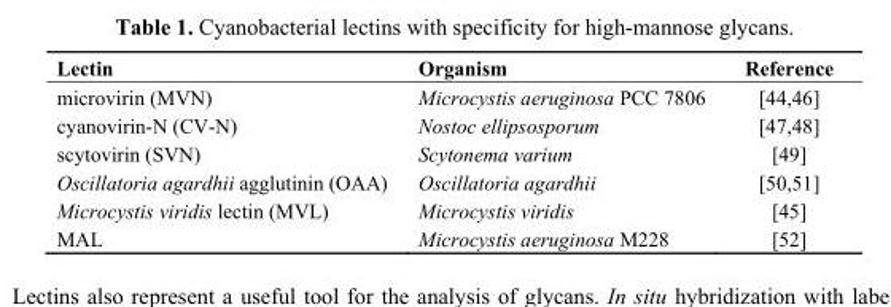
<table><thead><tr><td>Lectin</td><td>Organism</td><td>Reference</td></tr></thead><tbody><tr><td>microvirin (MVN)</td><td>Microcystis aeruginosa PCC 7806</td><td>[44,46]</td></tr><tr><td>cyanovirin-N (CV-N)</td><td>Nostoc ellipsosporum</td><td>[47,48]</td></tr><tr><td>scytovirin (SVN)</td><td>Scytonema varium</td><td>[49]</td></tr><tr><td>Oscillatoria agardhii agglutinin (OAA)</td><td>Oscillatoria agardhii</td><td>[50,51]</td></tr><tr><td>Microcystis viridis lectin (MVL)</td><td>Microcystis viridis</td><td>[45]</td></tr><tr><td>MAL</td><td>Microcystis aeruginosa M228</td><td>[52]</td></tr></tbody></table>